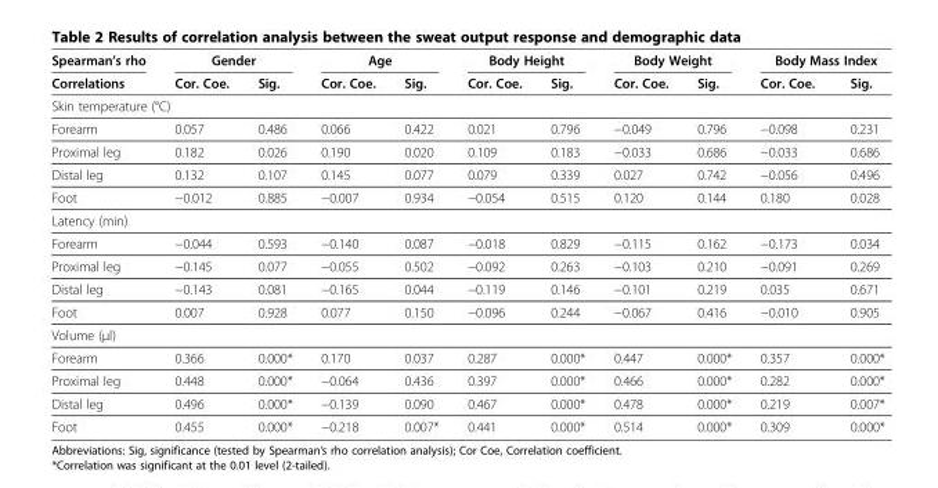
<table><thead><tr><td rowspan="2">Spearman’s rho Correlations</td><td colspan="2">Gender</td><td colspan="2">Age</td><td colspan="2">Body Height</td><td colspan="2">Body Weight</td><td colspan="2">Body Mass Index</td></tr><tr><td>Cor. Coe.</td><td>Sig.</td><td>Cor. Coe.</td><td>Sig.</td><td>Cor. Coe.</td><td>Sig.</td><td>Cor. Coe.</td><td>Sig.</td><td>Cor. Coe.</td><td>Sig.</td></tr></thead><tbody><tr><td colspan="11">Skin temperature (°C)</td></tr><tr><td>Forearm</td><td>0.057</td><td>0.486</td><td>0.066</td><td>0.422</td><td>0.021</td><td>0.796</td><td>−0.049</td><td>0.796</td><td>−0.098</td><td>0.231</td></tr><tr><td>Proximal leg</td><td>0.182</td><td>0.026</td><td>0.190</td><td>0.020</td><td>0.109</td><td>0.183</td><td>−0.033</td><td>0.686</td><td>−0.033</td><td>0.686</td></tr><tr><td>Distal leg</td><td>0.132</td><td>0.107</td><td>0.145</td><td>0.077</td><td>0.079</td><td>0.339</td><td>0.027</td><td>0.742</td><td>−0.056</td><td>0.496</td></tr><tr><td>Foot</td><td>−0.012</td><td>0.885</td><td>−0.007</td><td>0.934</td><td>−0.054</td><td>0.515</td><td>0.120</td><td>0.144</td><td>0.180</td><td>0.028</td></tr><tr><td colspan="11">Latency (min)</td></tr><tr><td>Forearm</td><td>−0.044</td><td>0.593</td><td>−0.140</td><td>0.087</td><td>−0.018</td><td>0.829</td><td>−0.115</td><td>0.162</td><td>−0.173</td><td>0.034</td></tr><tr><td>Proximal leg</td><td>−0.145</td><td>0.077</td><td>−0.055</td><td>0.502</td><td>−0.092</td><td>0.263</td><td>−0.103</td><td>0.210</td><td>−0.091</td><td>0.269</td></tr><tr><td>Distal leg</td><td>−0.143</td><td>0.081</td><td>−0.165</td><td>0.044</td><td>−0.119</td><td>0.146</td><td>−0.101</td><td>0.219</td><td>0.035</td><td>0.671</td></tr><tr><td>Foot</td><td>0.007</td><td>0.928</td><td>0.077</td><td>0.150</td><td>−0.096</td><td>0.244</td><td>−0.067</td><td>0.416</td><td>−0.010</td><td>0.905</td></tr><tr><td colspan="11">Volume (μl)</td></tr><tr><td>Forearm</td><td>0.366</td><td>0.000*</td><td>0.170</td><td>0.037</td><td>0.287</td><td>0.000*</td><td>0.447</td><td>0.000*</td><td>0.357</td><td>0.000*</td></tr><tr><td>Proximal leg</td><td>0.448</td><td>0.000*</td><td>−0.064</td><td>0.436</td><td>0.397</td><td>0.000*</td><td>0.466</td><td>0.000*</td><td>0.282</td><td>0.000*</td></tr><tr><td>Distal leg</td><td>0.496</td><td>0.000*</td><td>−0.139</td><td>0.090</td><td>0.467</td><td>0.000*</td><td>0.478</td><td>0.000*</td><td>0.219</td><td>0.007*</td></tr><tr><td>Foot</td><td>0.455</td><td>0.000*</td><td>−0.218</td><td>0.007*</td><td>0.441</td><td>0.000*</td><td>0.514</td><td>0.000*</td><td>0.309</td><td>0.000*</td></tr></tbody></table>